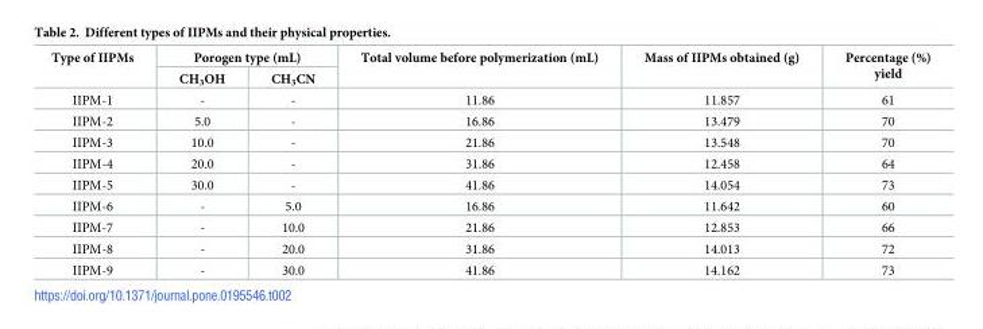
<table><thead><tr><td rowspan="2">Type of IIPMs</td><td colspan="2">Porogen type (mL)</td><td rowspan="2">Total volume before polymerization (mL)</td><td rowspan="2">Mass of IIPMs obtained (g)</td><td rowspan="2">Percentage (%) yield</td></tr><tr><td>CH<sub>3</sub>OH</td><td>CH<sub>3</sub>CN</td></tr></thead><tbody><tr><td>IIPM-1</td><td>-</td><td>-</td><td>11.86</td><td>11.857</td><td>61</td></tr><tr><td>IIPM-2</td><td>5.0</td><td>-</td><td>16.86</td><td>13.479</td><td>70</td></tr><tr><td>IIPM-3</td><td>10.0</td><td>-</td><td>21.86</td><td>13.548</td><td>70</td></tr><tr><td>IIPM-4</td><td>20.0</td><td>-</td><td>31.86</td><td>12.458</td><td>64</td></tr><tr><td>IIPM-5</td><td>30.0</td><td>-</td><td>41.86</td><td>14.054</td><td>73</td></tr><tr><td>IIPM-6</td><td>-</td><td>5.0</td><td>16.86</td><td>11.642</td><td>60</td></tr><tr><td>IIPM-7</td><td>-</td><td>10.0</td><td>21.86</td><td>12.853</td><td>66</td></tr><tr><td>IIPM-8</td><td>-</td><td>20.0</td><td>31.86</td><td>14.013</td><td>72</td></tr><tr><td>IIPM-9</td><td>-</td><td>30.0</td><td>41.86</td><td>14.162</td><td>73</td></tr></tbody></table>